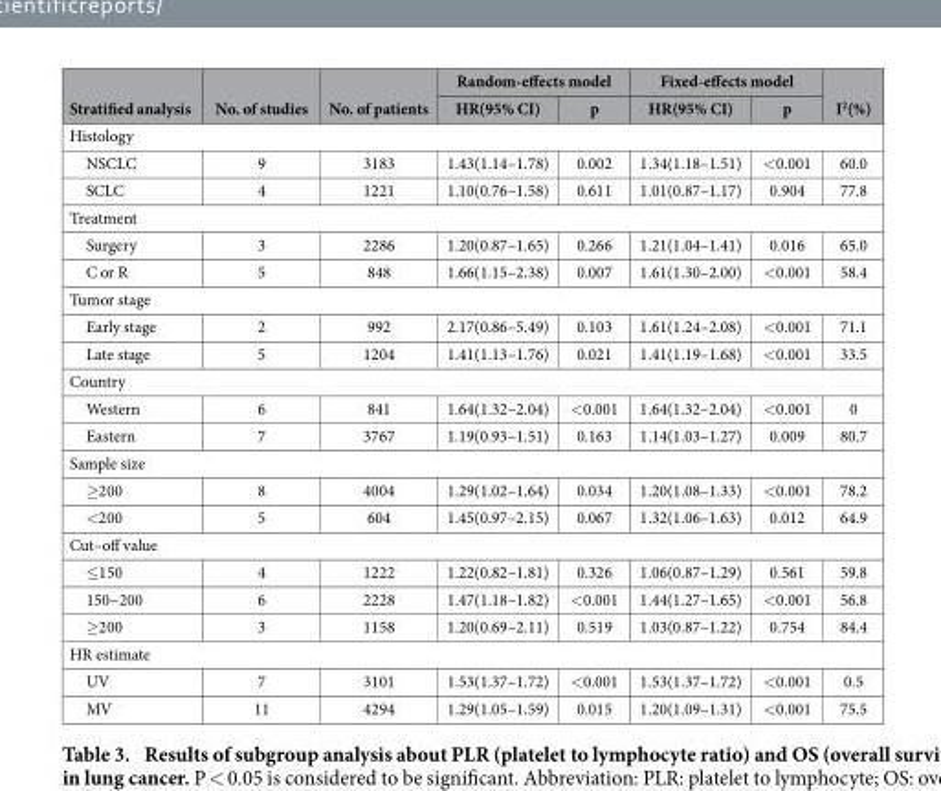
<table><thead><tr><td rowspan="2">Stratified analysis</td><td rowspan="2">No. of studies</td><td rowspan="2">No. of patients</td><td colspan="2">Random-effects model</td><td colspan="2">Fixed-effects model</td><td rowspan="2">I<sup>2</sup>(%)</td></tr><tr><td>HR(95% CI)</td><td>p</td><td>HR(95% CI)</td><td>p</td></tr></thead><tbody><tr><td colspan="8">Histology</td></tr><tr><td>NSCLC</td><td>9</td><td>3183</td><td>1.43(1.14–1.78)</td><td>0.002</td><td>1.34(1.18–1.51)</td><td>&lt; 0.001</td><td>60.0</td></tr><tr><td>SCLC</td><td>4</td><td>1221</td><td>1.10(0.76–1.58)</td><td>0.611</td><td>1.01(0.87–1.17)</td><td>0.904</td><td>77.8</td></tr><tr><td colspan="8">Treatment</td></tr><tr><td>Surgery</td><td>3</td><td>2286</td><td>1.20(0.87–1.65)</td><td>0.266</td><td>1.21(1.04–1.41)</td><td>0.016</td><td>65.0</td></tr><tr><td>C or R</td><td>5</td><td>848</td><td>1.66(1.15–2.38)</td><td>0.007</td><td>1.61(1.30–2.00)</td><td>&lt; 0.001</td><td>58.4</td></tr><tr><td colspan="8">Tumor stage</td></tr><tr><td>Early stage</td><td>2</td><td>992</td><td>2.17(0.86–5.49)</td><td>0.103</td><td>1.61(1.24–2.08)</td><td>&lt; 0.001</td><td>71.1</td></tr><tr><td>Late stage</td><td>5</td><td>1204</td><td>1.41(1.13–1.76)</td><td>0.021</td><td>1.41(1.19–1.68)</td><td>&lt; 0.001</td><td>33.5</td></tr><tr><td colspan="8">Country</td></tr><tr><td>Western</td><td>6</td><td>841</td><td>1.64(1.32–2.04)</td><td>&lt; 0.001</td><td>1.64(1.32–2.04)</td><td>&lt; 0.001</td><td>0</td></tr><tr><td>Eastern</td><td>7</td><td>3767</td><td>1.19(0.93–1.51)</td><td>0.163</td><td>1.14(1.03–1.27)</td><td>0.009</td><td>80.7</td></tr><tr><td colspan="8">Sample size</td></tr><tr><td>≥ 200</td><td>8</td><td>4004</td><td>1.29(1.02–1.64)</td><td>0.034</td><td>1.20(1.08–1.33)</td><td>&lt; 0.001</td><td>78.2</td></tr><tr><td>&lt; 200</td><td>5</td><td>604</td><td>1.45(0.97–2.15)</td><td>0.067</td><td>1.32(1.06–1.63)</td><td>0.012</td><td>64.9</td></tr><tr><td colspan="8">Cut–off value</td></tr><tr><td>≤ 150</td><td>4</td><td>1222</td><td>1.22(0.82–1.81)</td><td>0.326</td><td>1.06(0.87–1.29)</td><td>0.561</td><td>59.8</td></tr><tr><td>150~200</td><td>6</td><td>2228</td><td>1.47(1.18–1.82)</td><td>&lt; 0.001</td><td>1.44(1.27–1.65)</td><td>&lt; 0.001</td><td>56.8</td></tr><tr><td>≥ 200</td><td>3</td><td>1158</td><td>1.20(0.69–2.11)</td><td>0.519</td><td>1.03(0.87–1.22)</td><td>0.754</td><td>84.4</td></tr><tr><td colspan="8">HR estimate</td></tr><tr><td>UV</td><td>7</td><td>3101</td><td>1.53(1.37–1.72)</td><td>&lt; 0.001</td><td>1.53(1.37–1.72)</td><td>&lt; 0.001</td><td>0.5</td></tr><tr><td>MV</td><td>11</td><td>4294</td><td>1.29(1.05–1.59)</td><td>0.015</td><td>1.20(1.09–1.31)</td><td>&lt; 0.001</td><td>75.5</td></tr></tbody></table>